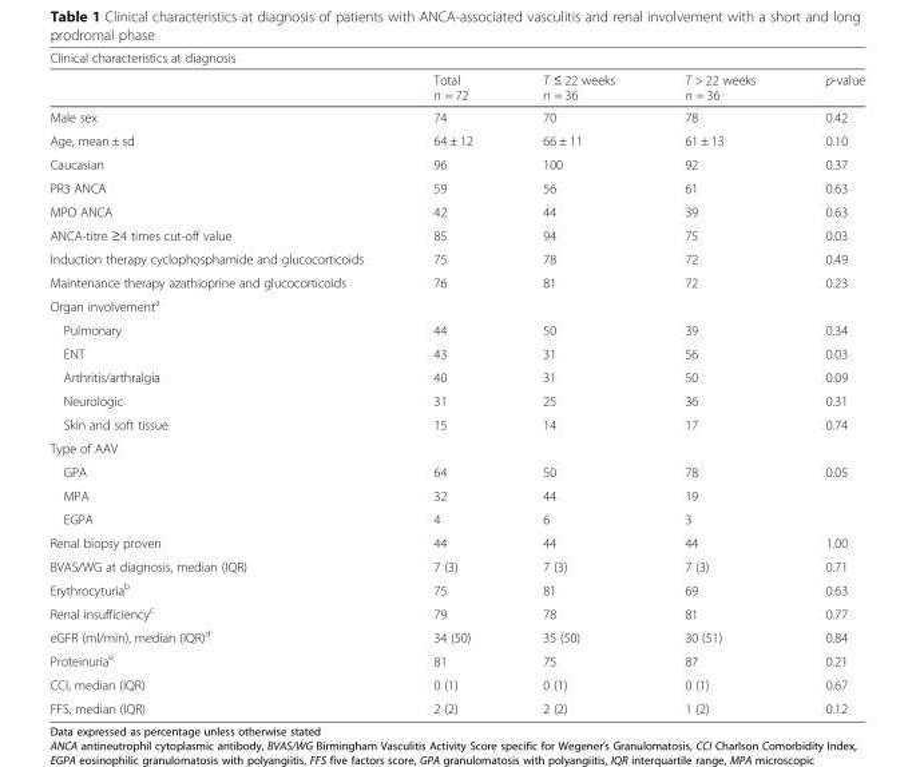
<table><thead><tr><td colspan="5">Clinical characteristics at diagnosis</td></tr><tr><td></td><td>Total n = 72</td><td>T ≤ 22 weeks n = 36</td><td>T &gt; 22 weeks n = 36</td><td>p-value</td></tr></thead><tbody><tr><td>Male sex</td><td>74</td><td>70</td><td>78</td><td>0.42</td></tr><tr><td>Age, mean ± sd</td><td>64 ± 12</td><td>66 ± 11</td><td>61 ± 13</td><td>0.10</td></tr><tr><td>Caucasian</td><td>96</td><td>100</td><td>92</td><td>0.37</td></tr><tr><td>PR3 ANCA</td><td>59</td><td>56</td><td>61</td><td>0.63</td></tr><tr><td>MPO ANCA</td><td>42</td><td>44</td><td>39</td><td>0.63</td></tr><tr><td>ANCA-titre ≥4 times cut-off value</td><td>85</td><td>94</td><td>75</td><td>0.03</td></tr><tr><td>Induction therapy cyclophosphamide and glucocorticoids</td><td>75</td><td>78</td><td>72</td><td>0.49</td></tr><tr><td>Maintenance therapy azathioprine and glucocorticoids</td><td>76</td><td>81</td><td>72</td><td>0.23</td></tr><tr><td colspan="5">Organ involvement<sup>a</sup></td></tr><tr><td>Pulmonary</td><td>44</td><td>50</td><td>39</td><td>0.34</td></tr><tr><td>ENT</td><td>43</td><td>31</td><td>56</td><td>0.03</td></tr><tr><td>Arthritis/arthralgia</td><td>40</td><td>31</td><td>50</td><td>0.09</td></tr><tr><td>Neurologic</td><td>31</td><td>25</td><td>36</td><td>0.31</td></tr><tr><td>Skin and soft tissue</td><td>15</td><td>14</td><td>17</td><td>0.74</td></tr><tr><td colspan="5">Type of AAV</td></tr><tr><td>GPA</td><td>64</td><td>50</td><td>78</td><td>0.05</td></tr><tr><td>MPA</td><td>32</td><td>44</td><td>19</td><td></td></tr><tr><td>EGPA</td><td>4</td><td>6</td><td>3</td><td></td></tr><tr><td>Renal biopsy proven</td><td>44</td><td>44</td><td>44</td><td>1.00</td></tr><tr><td>BVAS/WG at diagnosis, median (IQR)</td><td>7 (3)</td><td>7 (3)</td><td>7 (3)</td><td>0.71</td></tr><tr><td>Erythrocyturia<sup>b</sup></td><td>75</td><td>81</td><td>69</td><td>0.63</td></tr><tr><td>Renal insufficiency<sup>c</sup></td><td>79</td><td>78</td><td>81</td><td>0.77</td></tr><tr><td>eGFR (ml/min), median (IQR)<sup>d</sup></td><td>34 (50)</td><td>35 (50)</td><td>30 (51)</td><td>0.84</td></tr><tr><td>Proteinuria<sup>e</sup></td><td>81</td><td>75</td><td>87</td><td>0.21</td></tr><tr><td>CCI, median (IQR)</td><td>0 (1)</td><td>0 (1)</td><td>0 (1)</td><td>0.67</td></tr><tr><td>FFS, median (IQR)</td><td>2 (2)</td><td>2 (2)</td><td>1 (2)</td><td>0.12</td></tr></tbody></table>